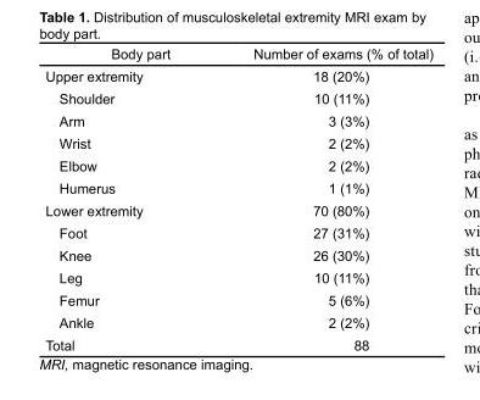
<table><thead><tr><td>Body part</td><td>Number of exams (% of total)</td></tr></thead><tbody><tr><td>Upper extremity</td><td>18 (20%)</td></tr><tr><td>Shoulder</td><td>10 (11%)</td></tr><tr><td>Arm</td><td>3 (3%)</td></tr><tr><td>Wrist</td><td>2 (2%)</td></tr><tr><td>Elbow</td><td>2 (2%)</td></tr><tr><td>Humerus</td><td>1 (1%)</td></tr><tr><td>Lower extremity</td><td>70 (80%)</td></tr><tr><td>Foot</td><td>27 (31%)</td></tr><tr><td>Knee</td><td>26 (30%)</td></tr><tr><td>Leg</td><td>10 (11%)</td></tr><tr><td>Femur</td><td>5 (6%)</td></tr><tr><td>Ankle</td><td>2 (2%)</td></tr><tr><td>Total</td><td>88</td></tr></tbody></table>